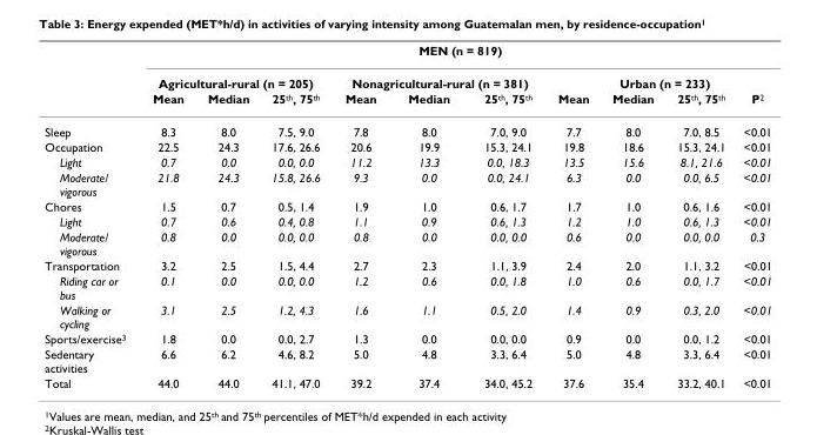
<table><thead><tr><td rowspan="3"></td><td colspan="10">MEN (n = 819)</td></tr><tr><td colspan="3">Agricultural-rural (n = 205)</td><td colspan="3">Nonagricultural-rural (n = 381)</td><td colspan="4">Urban (n = 233)</td></tr><tr><td>Mean</td><td>Median</td><td>25<sup>th</sup>, 75<sup>th</sup></td><td>Mean</td><td>Median</td><td>25<sup>th</sup>, 75<sup>th</sup></td><td>Mean</td><td>Median</td><td>25<sup>th</sup>, 75<sup>th</sup></td><td>P<sup>2</sup></td></tr></thead><tbody><tr><td>Sleep</td><td>8.3</td><td>8.0</td><td>7.5, 9.0</td><td>7.8</td><td>8.0</td><td>7.0, 9.0</td><td>7.7</td><td>8.0</td><td>7.0, 8.5</td><td>&lt;0.01</td></tr><tr><td>Occupation</td><td>22.5</td><td>24.3</td><td>17.6, 26.6</td><td>20.6</td><td>19.9</td><td>15.3, 24.1</td><td>19.8</td><td>18.6</td><td>15.3, 24.1</td><td>&lt;0.01</td></tr><tr><td>Light</td><td>0.7</td><td>0.0</td><td>0.0, 0.0</td><td>11.2</td><td>13.3</td><td>0.0, 18.3</td><td>13.5</td><td>15.6</td><td>8.1, 21.6</td><td>&lt;0.01</td></tr><tr><td>Moderate/ vigorous</td><td>21.8</td><td>24.3</td><td>15.8, 26.6</td><td>9.3</td><td>0.0</td><td>0.0, 24.1</td><td>6.3</td><td>0.0</td><td>0.0, 6.5</td><td>&lt;0.01</td></tr><tr><td>Chores</td><td>1.5</td><td>0.7</td><td>0.5, 1.4</td><td>1.9</td><td>1.0</td><td>0.6, 1.7</td><td>1.7</td><td>1.0</td><td>0.6, 1.6</td><td>&lt;0.01</td></tr><tr><td>Light</td><td>0.7</td><td>0.6</td><td>0.4, 0.8</td><td>1.1</td><td>0.9</td><td>0.6, 1.3</td><td>1.2</td><td>1.0</td><td>0.6, 1.3</td><td>&lt;0.01</td></tr><tr><td>Moderate/ vigorous</td><td>0.8</td><td>0.0</td><td>0.0, 0.0</td><td>0.8</td><td>0.0</td><td>0.0, 0.0</td><td>0.6</td><td>0.0</td><td>0.0, 0.0</td><td>0.3</td></tr><tr><td>Transportation</td><td>3.2</td><td>2.5</td><td>1.5, 4.4</td><td>2.7</td><td>2.3</td><td>1.1, 3.9</td><td>2.4</td><td>2.0</td><td>1.1, 3.2</td><td>&lt;0.01</td></tr><tr><td>Riding car or bus</td><td>0.1</td><td>0.0</td><td>0.0, 0.0</td><td>1.2</td><td>0.6</td><td>0.0, 1.8</td><td>1.0</td><td>0.6</td><td>0.0, 1.7</td><td>&lt;0.01</td></tr><tr><td>Walking or cycling</td><td>3.1</td><td>2.5</td><td>1.2, 4.3</td><td>1.6</td><td>1.1</td><td>0.5, 2.0</td><td>1.4</td><td>0.9</td><td>0.3, 2.0</td><td>&lt;0.01</td></tr><tr><td>Sports/exercise<sup>3</sup></td><td>1.8</td><td>0.0</td><td>0.0, 2.7</td><td>1.3</td><td>0.0</td><td>0.0, 0.0</td><td>0.9</td><td>0.0</td><td>0.0, 1.2</td><td>&lt;0.01</td></tr><tr><td>Sedentary activities</td><td>6.6</td><td>6.2</td><td>4.6, 8.2</td><td>5.0</td><td>4.8</td><td>3.3, 6.4</td><td>5.0</td><td>4.8</td><td>3.3, 6.4</td><td>&lt;0.01</td></tr><tr><td>Total</td><td>44.0</td><td>44.0</td><td>41.1, 47.0</td><td>39.2</td><td>37.4</td><td>34.0, 45.2</td><td>37.6</td><td>35.4</td><td>33.2, 40.1</td><td>&lt;0.01</td></tr></tbody></table>